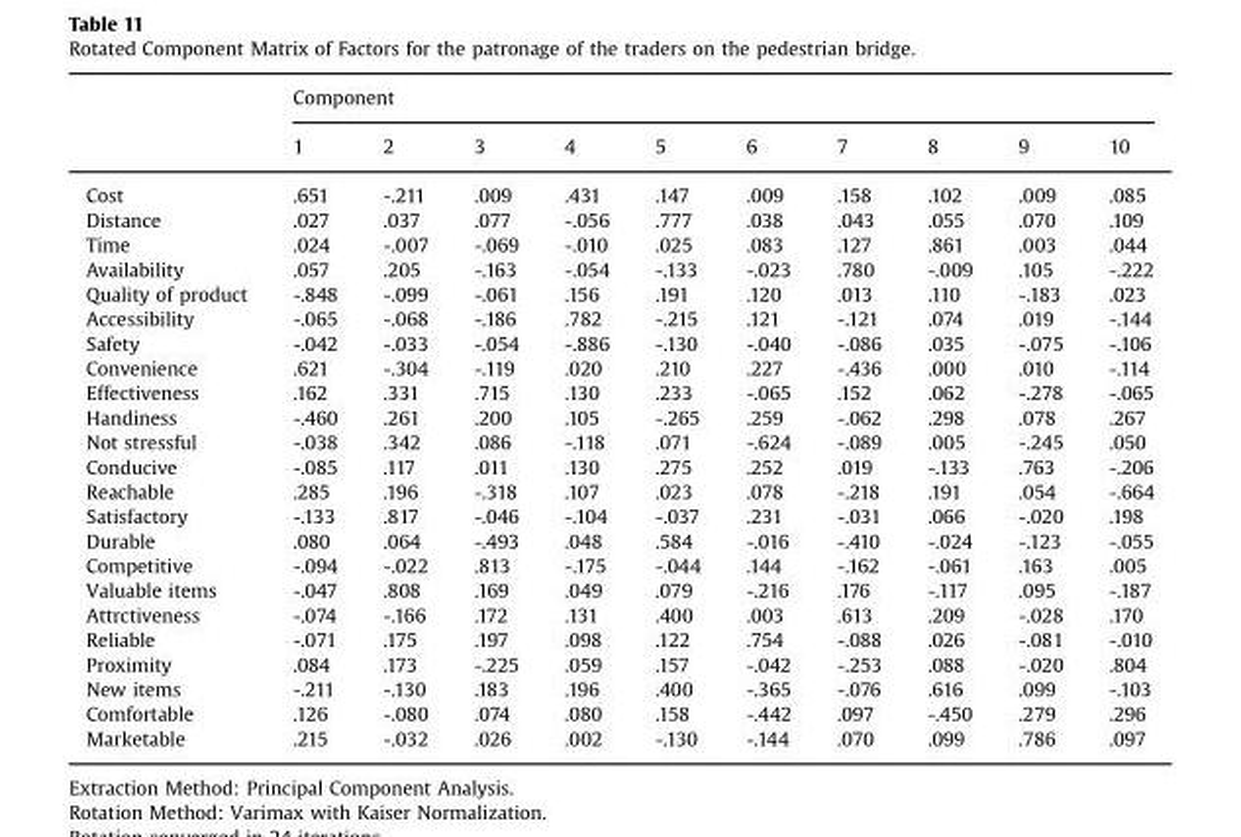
<table><thead><tr><td rowspan="2"></td><td colspan="10">Component</td></tr><tr><td>1</td><td>2</td><td>3</td><td>4</td><td>5</td><td>6</td><td>7</td><td>8</td><td>9</td><td>10</td></tr></thead><tbody><tr><td>Cost</td><td>.651</td><td>-.211</td><td>.009</td><td>.431</td><td>.147</td><td>.009</td><td>.158</td><td>.102</td><td>.009</td><td>.085</td></tr><tr><td>Distance</td><td>.027</td><td>.037</td><td>.077</td><td>-.056</td><td>.777</td><td>.038</td><td>.043</td><td>.055</td><td>.070</td><td>.109</td></tr><tr><td>Time</td><td>.024</td><td>-.007</td><td>-.069</td><td>-.010</td><td>.025</td><td>.083</td><td>.127</td><td>.861</td><td>.003</td><td>.044</td></tr><tr><td>Availability</td><td>.057</td><td>.205</td><td>-.163</td><td>-.054</td><td>-.133</td><td>-.023</td><td>.780</td><td>-.009</td><td>.105</td><td>-.222</td></tr><tr><td>Quality of product</td><td>-.848</td><td>-.099</td><td>-.061</td><td>.156</td><td>.191</td><td>.120</td><td>.013</td><td>.110</td><td>-.183</td><td>.023</td></tr><tr><td>Accessibility</td><td>-.065</td><td>-.068</td><td>-.186</td><td>.782</td><td>-.215</td><td>.121</td><td>-.121</td><td>.074</td><td>.019</td><td>-.144</td></tr><tr><td>Safety</td><td>-.042</td><td>-.033</td><td>-.054</td><td>-.886</td><td>-.130</td><td>-.040</td><td>-.086</td><td>.035</td><td>-.075</td><td>-.106</td></tr><tr><td>Convenience</td><td>.621</td><td>-.304</td><td>-.119</td><td>.020</td><td>.210</td><td>.227</td><td>-.436</td><td>.000</td><td>.010</td><td>-.114</td></tr><tr><td>Effectiveness</td><td>.162</td><td>.331</td><td>.715</td><td>.130</td><td>.233</td><td>-.065</td><td>.152</td><td>.062</td><td>-.278</td><td>-.065</td></tr><tr><td>Handiness</td><td>-.460</td><td>.261</td><td>.200</td><td>.105</td><td>-.265</td><td>.259</td><td>-.062</td><td>.298</td><td>.078</td><td>.267</td></tr><tr><td>Not stressful</td><td>-.038</td><td>.342</td><td>.086</td><td>-.118</td><td>.071</td><td>-.624</td><td>-.089</td><td>.005</td><td>-.245</td><td>.050</td></tr><tr><td>Conducive</td><td>-.085</td><td>.117</td><td>.011</td><td>.130</td><td>.275</td><td>.252</td><td>.019</td><td>-.133</td><td>.763</td><td>-.206</td></tr><tr><td>Reachable</td><td>.285</td><td>.196</td><td>-.318</td><td>.107</td><td>.023</td><td>.078</td><td>-.218</td><td>.191</td><td>.054</td><td>-.664</td></tr><tr><td>Satisfactory</td><td>-.133</td><td>.817</td><td>-.046</td><td>-.104</td><td>-.037</td><td>.231</td><td>-.031</td><td>.066</td><td>-.020</td><td>.198</td></tr><tr><td>Durable</td><td>.080</td><td>.064</td><td>-.493</td><td>.048</td><td>.584</td><td>-.016</td><td>-.410</td><td>-.024</td><td>-.123</td><td>-.055</td></tr><tr><td>Competitive</td><td>-.094</td><td>-.022</td><td>.813</td><td>-.175</td><td>-.044</td><td>.144</td><td>-.162</td><td>-.061</td><td>.163</td><td>.005</td></tr><tr><td>Valuable items</td><td>-.047</td><td>.808</td><td>.169</td><td>.049</td><td>.079</td><td>-.216</td><td>.176</td><td>-.117</td><td>.095</td><td>-.187</td></tr><tr><td>Attrctiveness</td><td>-.074</td><td>-.166</td><td>.172</td><td>.131</td><td>.400</td><td>.003</td><td>.613</td><td>.209</td><td>-.028</td><td>.170</td></tr><tr><td>Reliable</td><td>-.071</td><td>.175</td><td>.197</td><td>.098</td><td>.122</td><td>.754</td><td>-.088</td><td>.026</td><td>-.081</td><td>-.010</td></tr><tr><td>Proximity</td><td>.084</td><td>.173</td><td>-.225</td><td>.059</td><td>.157</td><td>-.042</td><td>-.253</td><td>.088</td><td>-.020</td><td>.804</td></tr><tr><td>New items</td><td>-.211</td><td>-.130</td><td>.183</td><td>.196</td><td>.400</td><td>-.365</td><td>-.076</td><td>.616</td><td>.099</td><td>-.103</td></tr><tr><td>Comfortable</td><td>.126</td><td>-.080</td><td>.074</td><td>.080</td><td>.158</td><td>-.442</td><td>.097</td><td>-.450</td><td>.279</td><td>.296</td></tr><tr><td>Marketable</td><td>.215</td><td>-.032</td><td>.026</td><td>.002</td><td>-.130</td><td>-.144</td><td>.070</td><td>.099</td><td>.786</td><td>.097</td></tr></tbody></table>